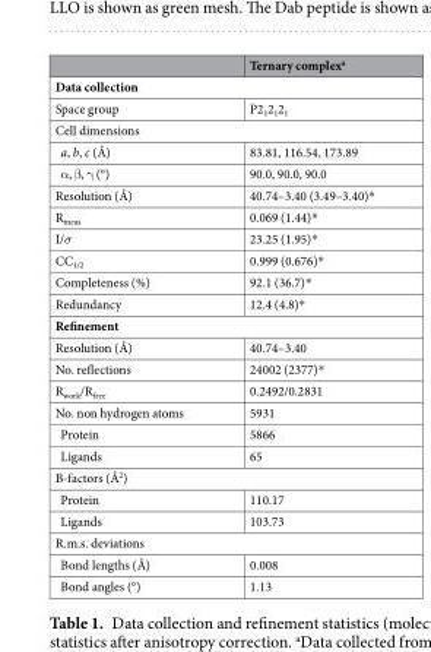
<table><thead><tr><td></td><td>Ternary complex<sup>a</sup></td></tr></thead><tbody><tr><td colspan="2">Data collection</td></tr><tr><td>Space group</td><td>P2<sub>1</sub>2<sub>1</sub>2<sub>1</sub></td></tr><tr><td colspan="2">Cell dimensions</td></tr><tr><td>a, b, c (Å)</td><td>83.81, 116.54, 173.89</td></tr><tr><td>α, β, γ (°)</td><td>90.0, 90.0, 90.0</td></tr><tr><td>Resolution (Å)</td><td>40.74–3.40 (3.49–3.40)*</td></tr><tr><td>R<sub>meas</sub></td><td>0.069 (1.44)*</td></tr><tr><td>I/σ</td><td>23.25 (1.95)*</td></tr><tr><td>CC<sub>1/2</sub></td><td>0.999 (0.676)*</td></tr><tr><td>Completeness (%)</td><td>92.1 (36.7)*</td></tr><tr><td>Redundancy</td><td>12.4 (4.8)*</td></tr><tr><td colspan="2">Refinement</td></tr><tr><td>Resolution (Å)</td><td>40.74–3.40</td></tr><tr><td>No. reflections</td><td>24002 (2377)*</td></tr><tr><td>R<sub>work</sub>/R<sub>free</sub></td><td>0.2492/0.2831</td></tr><tr><td>No. non hydrogen atoms</td><td>5931</td></tr><tr><td>Protein</td><td>5866</td></tr><tr><td>Ligands</td><td>65</td></tr><tr><td colspan="2">B-factors (Å<sup>2</sup>)</td></tr><tr><td>Protein</td><td>110.17</td></tr><tr><td>Ligands</td><td>103.73</td></tr><tr><td colspan="2">R.m.s. deviations</td></tr><tr><td>Bond lengths (Å)</td><td>0.008</td></tr><tr><td>Bond angles (°)</td><td>1.13</td></tr></tbody></table>